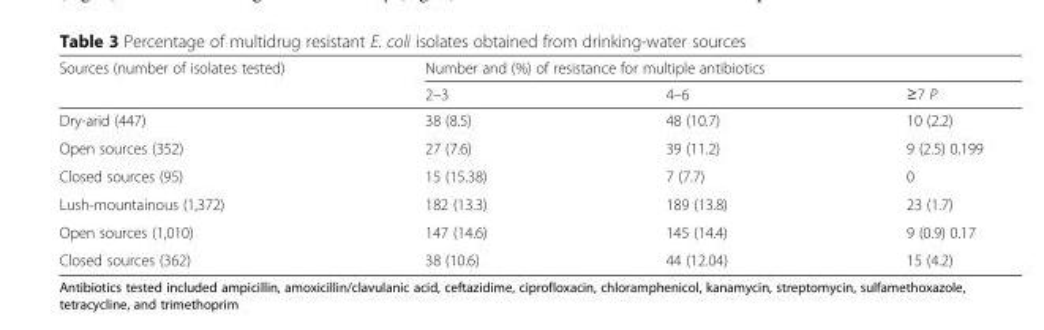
<table><thead><tr><td rowspan="2">Sources (number of isolates tested)</td><td colspan="3">Number and (%) of resistance for multiple antibiotics</td></tr><tr><td>2–3</td><td>4–6</td><td>≥7 P</td></tr></thead><tbody><tr><td>Dry-arid (447)</td><td>38 (8.5)</td><td>48 (10.7)</td><td>10 (2.2)</td></tr><tr><td>Open sources (352)</td><td>27 (7.6)</td><td>39 (11.2)</td><td>9 (2.5) 0.199</td></tr><tr><td>Closed sources (95)</td><td>15 (15.38)</td><td>7 (7.7)</td><td>0</td></tr><tr><td>Lush-mountainous (1,372)</td><td>182 (13.3)</td><td>189 (13.8)</td><td>23 (1.7)</td></tr><tr><td>Open sources (1,010)</td><td>147 (14.6)</td><td>145 (14.4)</td><td>9 (0.9) 0.17</td></tr><tr><td>Closed sources (362)</td><td>38 (10.6)</td><td>44 (12.04)</td><td>15 (4.2)</td></tr></tbody></table>